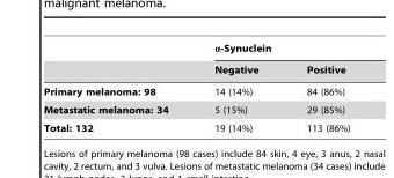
<table><thead><tr><td rowspan="2"></td><td colspan="2">α-Synuclein</td></tr><tr><td>Negative</td><td>Positive</td></tr></thead><tbody><tr><td>Primary melanoma: 98</td><td>14 (14%)</td><td>84 (86%)</td></tr><tr><td>Metastatic melanoma: 34</td><td>5 (15%)</td><td>29 (85%)</td></tr><tr><td>Total: 132</td><td>19 (14%)</td><td>113 (86%)</td></tr></tbody></table>